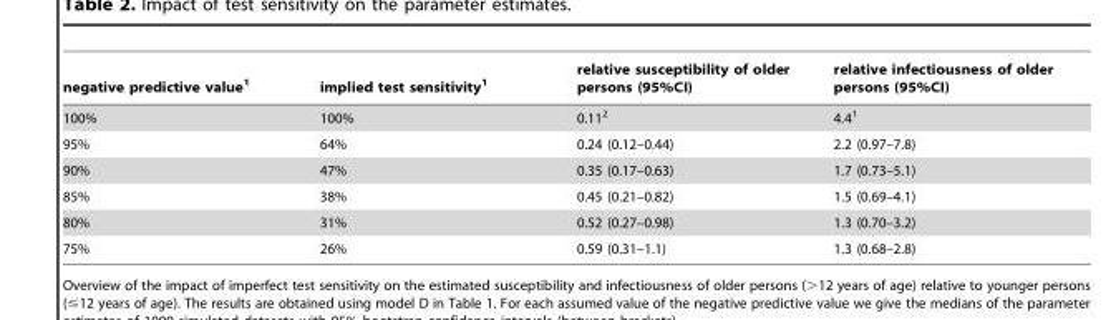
<table><thead><tr><td>negative predictive value<sup>1</sup></td><td>implied test sensitivity<sup>1</sup></td><td>relative susceptibility of older persons (95%CI)</td><td>relative infectiousness of older persons (95%CI)</td></tr></thead><tbody><tr><td>100%</td><td>100%</td><td>0.11<sup>2</sup></td><td>4.4<sup>1</sup></td></tr><tr><td>95%</td><td>64%</td><td>0.24 (0.12–0.44)</td><td>2.2 (0.97–7.8)</td></tr><tr><td>90%</td><td>47%</td><td>0.35 (0.17–0.63)</td><td>1.7 (0.73–5.1)</td></tr><tr><td>85%</td><td>38%</td><td>0.45 (0.21–0.82)</td><td>1.5 (0.69–4.1)</td></tr><tr><td>80%</td><td>31%</td><td>0.52 (0.27–0.98)</td><td>1.3 (0.70–3.2)</td></tr><tr><td>75%</td><td>26%</td><td>0.59 (0.31–1.1)</td><td>1.3 (0.68–2.8)</td></tr></tbody></table>